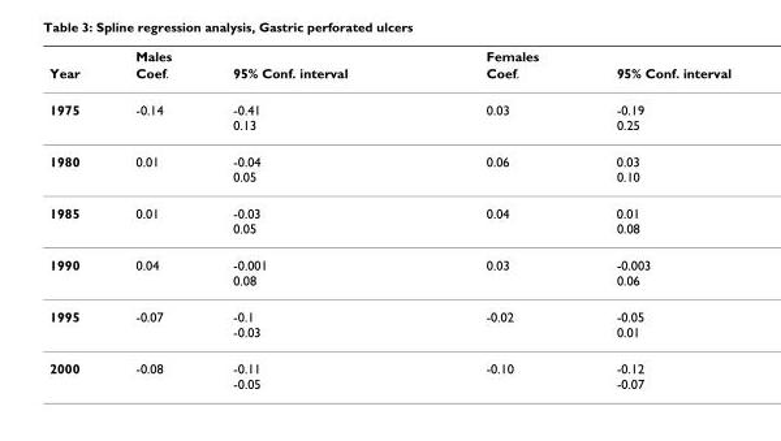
<table><thead><tr><td rowspan="2">Year</td><td rowspan="2">Males Coef.</td><td rowspan="2">95% Conf. interval</td><td rowspan="2">Females Coef.</td><td rowspan="2">95% Conf. interval</td></tr><tr></tr></thead><tbody><tr><td>1975</td><td>-0.14</td><td>-0.41 0.13</td><td>0.03</td><td>-0.19 0.25</td></tr><tr><td>1980</td><td>0.01</td><td>-0.04 0.05</td><td>0.06</td><td>0.03 0.10</td></tr><tr><td>1985</td><td>0.01</td><td>-0.03 0.05</td><td>0.04</td><td>0.01 0.08</td></tr><tr><td>1990</td><td>0.04</td><td>-0.001 0.08</td><td>0.03</td><td>-0.003 0.06</td></tr><tr><td>1995</td><td>-0.07</td><td>-0.1 -0.03</td><td>-0.02</td><td>-0.05 0.01</td></tr><tr><td>2000</td><td>-0.08</td><td>-0.11 -0.05</td><td>-0.10</td><td>-0.12 -0.07</td></tr></tbody></table>